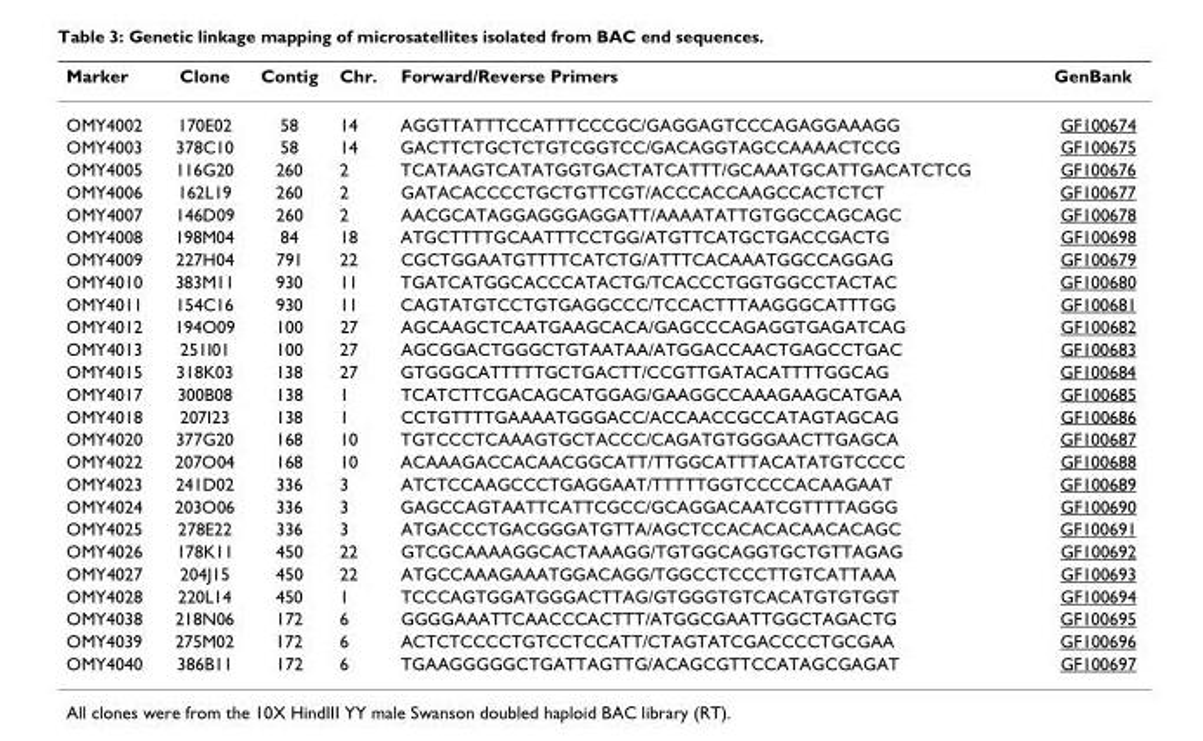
<table><thead><tr><td>Marker</td><td>Clone</td><td>Contig</td><td>Chr.</td><td>Forward/Reverse Primers</td><td>GenBank</td></tr></thead><tbody><tr><td>OMY4002</td><td>170E02</td><td>58</td><td>14</td><td>AGGTTATTTCCATTTCCCGC/GAGGAGTCCCAGAGGAAAGG</td><td>GF100674</td></tr><tr><td>OMY4003</td><td>378C10</td><td>58</td><td>14</td><td>GACTTCTGCTCTGTCGGTCC/GACAGGTAGCCAAAACTCCG</td><td>GF100675</td></tr><tr><td>OMY4005</td><td>116G20</td><td>260</td><td>2</td><td>TCATAAGTCATATGGTGACTATCATTT/GCAAATGCATTGACATCTCG</td><td>GF100676</td></tr><tr><td>OMY4006</td><td>162L19</td><td>260</td><td>2</td><td>GATACACCCCTGCTGTTCGT/ACCCACCAAGCCACTCTCT</td><td>GF100677</td></tr><tr><td>OMY4007</td><td>146D09</td><td>260</td><td>2</td><td>AACGCATAGGAGGGAGGATT/AAAATATTGTGGCCAGCAGC</td><td>GF100678</td></tr><tr><td>OMY4008</td><td>198M04</td><td>84</td><td>18</td><td>ATGCTTTTGCAATTTCCTGG/ATGTTCATGCTGACCGACTG</td><td>GF100698</td></tr><tr><td>OMY4009</td><td>227H04</td><td>791</td><td>22</td><td>CGCTGGAATGTTTTCATCTG/ATTTCACAAATGGCCAGGAG</td><td>GF100679</td></tr><tr><td>OMY4010</td><td>383M11</td><td>930</td><td>11</td><td>TGATCATGGCACCCATACTG/TCACCCTGGTGGCCTACTAC</td><td>GF100680</td></tr><tr><td>OMY4011</td><td>154C16</td><td>930</td><td>11</td><td>CAGTATGTCCTGTGAGGCCC/TCCACTTTAAGGGCATTTGG</td><td>GF100681</td></tr><tr><td>OMY4012</td><td>194O09</td><td>100</td><td>27</td><td>AGCAAGCTCAATGAAGCACA/GAGCCCAGAGGTGAGATCAG</td><td>GF100682</td></tr><tr><td>OMY4013</td><td>251I01</td><td>100</td><td>27</td><td>AGCGGACTGGGCTGTAATAA/ATGGACCAACTGAGCCTGAC</td><td>GF100683</td></tr><tr><td>OMY4015</td><td>318K03</td><td>138</td><td>27</td><td>GTGGGCATTTTTGCTGACTT/CCGTTGATACATTTTGGCAG</td><td>GF100684</td></tr><tr><td>OMY4017</td><td>300B08</td><td>138</td><td>1</td><td>TCATCTTCGACAGCATGGAG/GAAGGCCAAAGAAGCATGAA</td><td>GF100685</td></tr><tr><td>OMY4018</td><td>207I23</td><td>138</td><td>1</td><td>CCTGTTTTGAAAATGGGACC/ACCAACCGCCATAGTAGCAG</td><td>GF100686</td></tr><tr><td>OMY4020</td><td>377G20</td><td>168</td><td>10</td><td>TGTCCCTCAAAGTGCTACCC/CAGATGTGGGAACTTGAGCA</td><td>GF100687</td></tr><tr><td>OMY4022</td><td>207O04</td><td>168</td><td>10</td><td>ACAAAGACCACAACGGCATT/TTGGCATTTACATATGTCCCC</td><td>GF100688</td></tr><tr><td>OMY4023</td><td>241D02</td><td>336</td><td>3</td><td>ATCTCCAAGCCCTGAGGAAT/TTTTTGGTCCCCACAAGAAT</td><td>GF100689</td></tr><tr><td>OMY4024</td><td>203O06</td><td>336</td><td>3</td><td>GAGCCAGTAATTCATTCGCC/GCAGGACAATCGTTTTAGGG</td><td>GF100690</td></tr><tr><td>OMY4025</td><td>278E22</td><td>336</td><td>3</td><td>ATGACCCTGACGGGATGTTA/AGCTCCACACACAACACAGC</td><td>GF100691</td></tr><tr><td>OMY4026</td><td>178K11</td><td>450</td><td>22</td><td>GTCGCAAAAGGCACTAAAGG/TGTGGCAGGTGCTGTTAGAG</td><td>GF100692</td></tr><tr><td>OMY4027</td><td>204J15</td><td>450</td><td>22</td><td>ATGCCAAAGAAATGGACAGG/TGGCCTCCCTTGTCATTAAA</td><td>GF100693</td></tr><tr><td>OMY4028</td><td>220L14</td><td>450</td><td>1</td><td>TCCCAGTGGATGGGACTTAG/GTGGGTGTCACATGTGTGGT</td><td>GF100694</td></tr><tr><td>OMY4038</td><td>218N06</td><td>172</td><td>6</td><td>GGGGAAATTCAACCCACTTT/ATGGCGAATTGGCTAGACTG</td><td>GF100695</td></tr><tr><td>OMY4039</td><td>275M02</td><td>172</td><td>6</td><td>ACTCTCCCCTGTCCTCCATT/CTAGTATCGACCCCTGCGAA</td><td>GF100696</td></tr><tr><td>OMY4040</td><td>386B11</td><td>172</td><td>6</td><td>TGAAGGGGGCTGATTAGTTG/ACAGCGTTCCATAGCGAGAT</td><td>GF100697</td></tr></tbody></table>